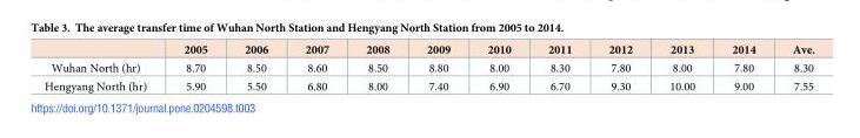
<table><thead><tr><td></td><td>2005</td><td>2006</td><td>2007</td><td>2008</td><td>2009</td><td>2010</td><td>2011</td><td>2012</td><td>2013</td><td>2014</td><td>Ave.</td></tr></thead><tbody><tr><td>Wuhan North (hr)</td><td>8.70</td><td>8.50</td><td>8.60</td><td>8.50</td><td>8.80</td><td>8.00</td><td>8.30</td><td>7.80</td><td>8.00</td><td>7.80</td><td>8.30</td></tr><tr><td>Hengyang North (hr)</td><td>5.90</td><td>5.50</td><td>6.80</td><td>8.00</td><td>7.40</td><td>6.90</td><td>6.70</td><td>9.30</td><td>10.00</td><td>9.00</td><td>7.55</td></tr></tbody></table>